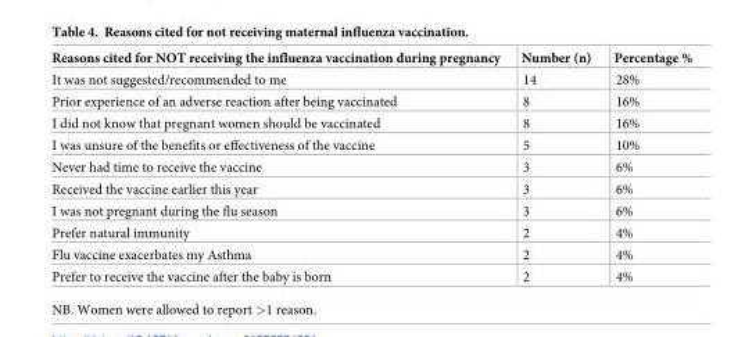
<table><thead><tr><td>Reasons cited for NOT receiving the influenza vaccination during pregnancy</td><td>Number (n)</td><td>Percentage %</td></tr></thead><tbody><tr><td>It was not suggested/recommended to me</td><td>14</td><td>28%</td></tr><tr><td>Prior experience of an adverse reaction after being vaccinated</td><td>8</td><td>16%</td></tr><tr><td>I did not know that pregnant women should be vaccinated</td><td>8</td><td>16%</td></tr><tr><td>I was unsure of the benefits or effectiveness of the vaccine</td><td>5</td><td>10%</td></tr><tr><td>Never had time to receive the vaccine</td><td>3</td><td>6%</td></tr><tr><td>Received the vaccine earlier this year</td><td>3</td><td>6%</td></tr><tr><td>I was not pregnant during the flu season</td><td>3</td><td>6%</td></tr><tr><td>Prefer natural immunity</td><td>2</td><td>4%</td></tr><tr><td>Flu vaccine exacerbates my Asthma</td><td>2</td><td>4%</td></tr><tr><td>Prefer to receive the vaccine after the baby is born</td><td>2</td><td>4%</td></tr></tbody></table>